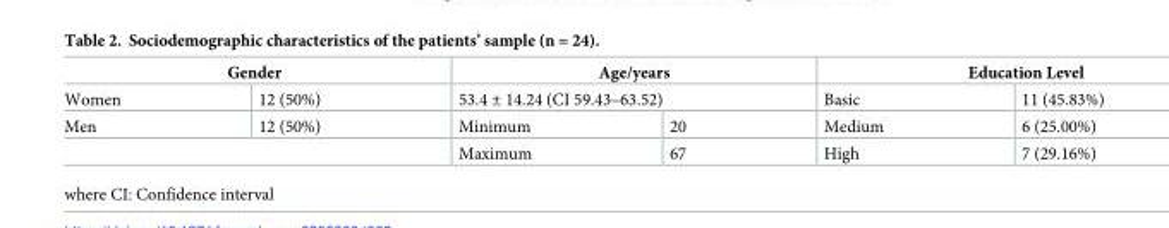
<table><thead><tr><td colspan="2">Gender</td><td rowspan="2" colspan="2">Age/years 53.4 ± 14.24 (CI 59.43–63.52)</td><td colspan="2">Education Level</td></tr><tr><td rowspan="2">Women Men</td><td rowspan="2">12 (50%) 12 (50%)</td><td rowspan="2">Basic Medium</td><td rowspan="2">11 (45.83%) 6 (25.00%)</td></tr><tr><td>Minimum</td><td>20</td></tr></thead><tbody><tr><td colspan="2"></td><td>Maximum</td><td>67</td><td>High</td><td>7 (29.16%)</td></tr></tbody></table>